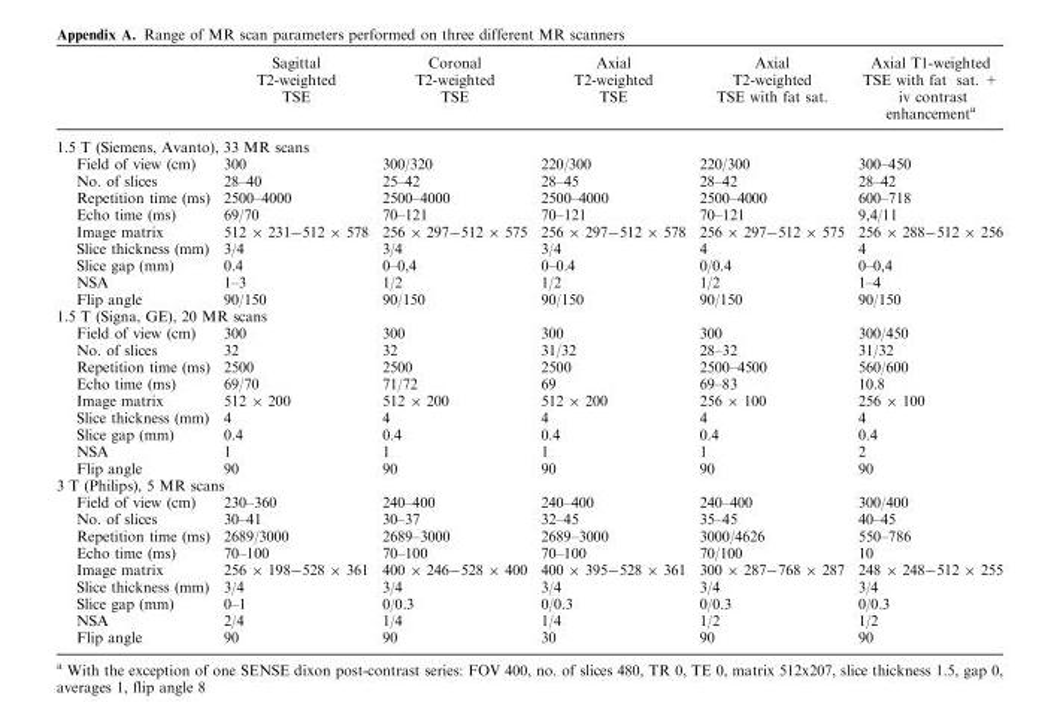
<table><thead><tr><td></td><td>Sagittal T2-weighted TSE</td><td>Coronal T2-weighted TSE</td><td>Axial T2-weighted TSE</td><td>Axial T2-weighted TSE with fat sat.</td><td>Axial T1-weighted TSE with fat sat. + iv contrast enhancement<sup>a</sup></td></tr></thead><tbody><tr><td colspan="6">1.5 T (Siemens, Avanto), 33 MR scans</td></tr><tr><td>Field of view (cm)</td><td>300</td><td>300/320</td><td>220/300</td><td>220/300</td><td>300–450</td></tr><tr><td>No. of slices</td><td>28–40</td><td>25–42</td><td>28–45</td><td>28–42</td><td>28–42</td></tr><tr><td>Repetition time (ms)</td><td>2500–4000</td><td>2500–4000</td><td>2500–4000</td><td>2500–4000</td><td>600–718</td></tr><tr><td>Echo time (ms)</td><td>69/70</td><td>70–121</td><td>70–121</td><td>70–121</td><td>9,4/11</td></tr><tr><td>Image matrix</td><td>512 × 231-512 × 578</td><td>256 × 297-512 × 575</td><td>256 × 297-512 × 578</td><td>256 × 297-512 × 575</td><td>256 × 288-512 × 256</td></tr><tr><td>Slice thickness (mm)</td><td>3/4</td><td>3/4</td><td>3/4</td><td>4</td><td>4</td></tr><tr><td>Slice gap (mm)</td><td>0.4</td><td>0–0,4</td><td>0–0.4</td><td>0/0.4</td><td>0–0,4</td></tr><tr><td>NSA</td><td>1–3</td><td>1/2</td><td>1/2</td><td>1/2</td><td>1–4</td></tr><tr><td>Flip angle</td><td>90/150</td><td>90/150</td><td>90/150</td><td>90/150</td><td>90/150</td></tr><tr><td colspan="6">1.5 T (Signa, GE), 20 MR scans</td></tr><tr><td>Field of view (cm)</td><td>300</td><td>300</td><td>300</td><td>300</td><td>300/450</td></tr><tr><td>No. of slices</td><td>32</td><td>32</td><td>31/32</td><td>28–32</td><td>31/32</td></tr><tr><td>Repetition time (ms)</td><td>2500</td><td>2500</td><td>2500</td><td>2500–4500</td><td>560/600</td></tr><tr><td>Echo time (ms)</td><td>69/70</td><td>71/72</td><td>69</td><td>69–83</td><td>10.8</td></tr><tr><td>Image matrix</td><td>512 × 200</td><td>512 × 200</td><td>512 × 200</td><td>256 × 100</td><td>256 × 100</td></tr><tr><td>Slice thickness (mm)</td><td>4</td><td>4</td><td>4</td><td>4</td><td>4</td></tr><tr><td>Slice gap (mm)</td><td>0.4</td><td>0.4</td><td>0.4</td><td>0.4</td><td>0.4</td></tr><tr><td>NSA</td><td>1</td><td>1</td><td>1</td><td>1</td><td>2</td></tr><tr><td>Flip angle</td><td>90</td><td>90</td><td>90</td><td>90</td><td>90</td></tr><tr><td colspan="6">3 T (Philips), 5 MR scans</td></tr><tr><td>Field of view (cm)</td><td>230–360</td><td>240–400</td><td>240–400</td><td>240–400</td><td>300/400</td></tr><tr><td>No. of slices</td><td>30–41</td><td>30–37</td><td>32–45</td><td>35–45</td><td>40–45</td></tr><tr><td>Repetition time (ms)</td><td>2689/3000</td><td>2689–3000</td><td>2689–3000</td><td>3000/4626</td><td>550–786</td></tr><tr><td>Echo time (ms)</td><td>70–100</td><td>70–100</td><td>70–100</td><td>70/100</td><td>10</td></tr><tr><td>Image matrix</td><td>256 × 198-528 × 361</td><td>400 × 246-528 × 400</td><td>400 × 395-528 × 361</td><td>300 × 287-768 × 287</td><td>248 × 248-512 × 255</td></tr><tr><td>Slice thickness (mm)</td><td>3/4</td><td>3/4</td><td>3/4</td><td>3/4</td><td>3/4</td></tr><tr><td>Slice gap (mm)</td><td>0–1</td><td>0/0.3</td><td>0/0.3</td><td>0/0.3</td><td>0/0.3</td></tr><tr><td>NSA</td><td>2/4</td><td>1/4</td><td>1/4</td><td>1/2</td><td>1/2</td></tr><tr><td>Flip angle</td><td>90</td><td>90</td><td>30</td><td>90</td><td>90</td></tr></tbody></table>